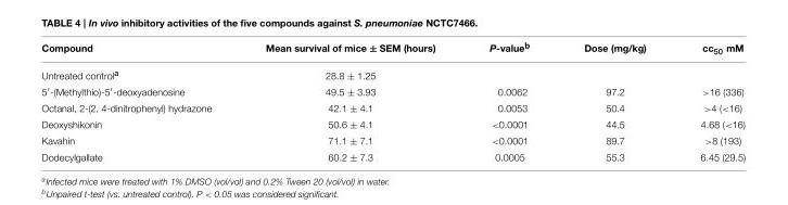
<table><thead><tr><td>Compound</td><td>Mean survival of mice ± SEM (hours)</td><td>P-value<sup>b</sup></td><td>Dose (mg/kg)</td><td>cc<sub>50</sub> mM</td></tr></thead><tbody><tr><td>Untreated control<sup>a</sup></td><td>28.8 ± 1.25</td><td></td><td></td><td></td></tr><tr><td>5′-(Methylthio)-5′-deoxyadenosine</td><td>49.5 ± 3.93</td><td>0.0062</td><td>97.2</td><td>&gt;16 (336)</td></tr><tr><td>Octanal, 2-(2, 4-dinitrophenyl) hydrazone</td><td>42.1 ± 4.1</td><td>0.0053</td><td>50.4</td><td>&gt;4 (&lt;16)</td></tr><tr><td>Deoxyshikonin</td><td>50.6 ± 4.1</td><td>&lt;0.0001</td><td>44.5</td><td>4.68 (&lt;16)</td></tr><tr><td>Kavahin</td><td>71.1 ± 7.1</td><td>&lt;0.0001</td><td>89.7</td><td>&gt;8 (193)</td></tr><tr><td>Dodecylgallate</td><td>60.2 ± 7.3</td><td>0.0005</td><td>55.3</td><td>6.45 (29.5)</td></tr></tbody></table>